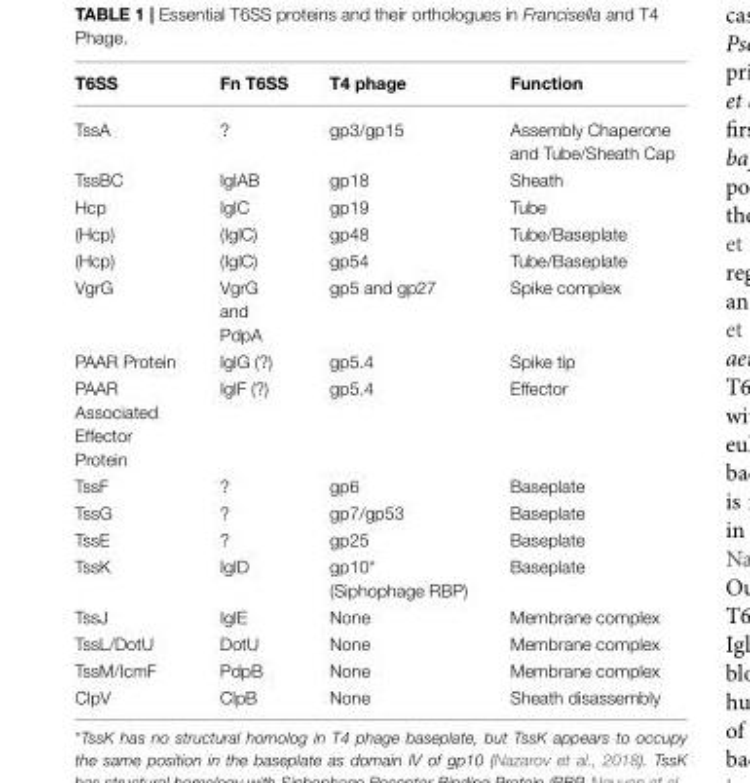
<table><thead><tr><td>T6SS</td><td>Fn T6SS</td><td>T4 phage</td><td>Function</td></tr></thead><tbody><tr><td>TssA</td><td>?</td><td>gp3/gp15</td><td>Assembly Chaperone and Tube/Sheath Cap</td></tr><tr><td>TssBC</td><td>IglAB</td><td>gp18</td><td>Sheath</td></tr><tr><td>Hcp</td><td>IglC</td><td>gp19</td><td>Tube</td></tr><tr><td>(Hcp)</td><td>(IglC)</td><td>gp48</td><td>Tube/Baseplate</td></tr><tr><td>(Hcp)</td><td>(IglC)</td><td>gp54</td><td>Tube/Baseplate</td></tr><tr><td>VgrG</td><td>VgrG and PdpA</td><td>gp5 and gp27</td><td>Spike complex</td></tr><tr><td>PAAR Protein</td><td>IglG (?)</td><td>gp5.4</td><td>Spike tip</td></tr><tr><td>PAAR Associated Effector Protein</td><td>IglF (?)</td><td>gp5.4</td><td>Effector</td></tr><tr><td>TssF</td><td>?</td><td>gp6</td><td>Baseplate</td></tr><tr><td>TssG</td><td>?</td><td>gp7/gp53</td><td>Baseplate</td></tr><tr><td>TssE</td><td>?</td><td>gp25</td><td>Baseplate</td></tr><tr><td>TssK</td><td>IglD</td><td>gp10* (Siphophage RBP)</td><td>Baseplate</td></tr><tr><td>TssJ</td><td>IglE</td><td>None</td><td>Membrane complex</td></tr><tr><td>TssL/DotU</td><td>DotU</td><td>None</td><td>Membrane complex</td></tr><tr><td>TssM/IcmF</td><td>PdpB</td><td>None</td><td>Membrane complex</td></tr><tr><td>ClpV</td><td>ClpB</td><td>None</td><td>Sheath disassembly</td></tr></tbody></table>